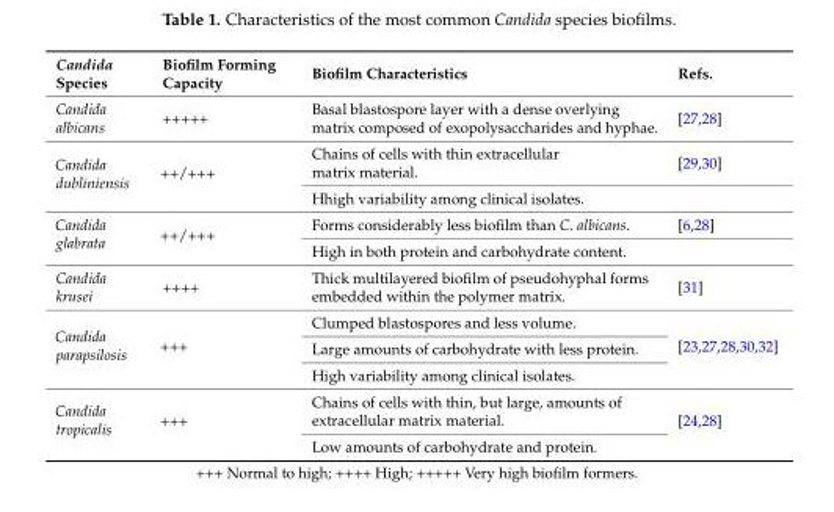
<table><thead><tr><td>Candida Species</td><td>Biofilm Forming Capacity</td><td>Biofilm Characteristics</td><td>Refs.</td></tr></thead><tbody><tr><td>Candida albicans</td><td>+++++</td><td>Basal blastospore layer with a dense overlying matrix composed of exopolysaccharides and hyphae.</td><td>[27,28]</td></tr><tr><td rowspan="2">Candida dubliniensis</td><td rowspan="2">++/+++</td><td>Chains of cells with thin extracellular matrix material.</td><td>[29,30]</td></tr><tr><td>Hhigh variability among clinical isolates.</td><td></td></tr><tr><td rowspan="2">Candida glabrata</td><td rowspan="2">++/+++</td><td>Forms considerably less biofilm than C. albicans.</td><td>[6,28]</td></tr><tr><td>High in both protein and carbohydrate content.</td><td></td></tr><tr><td>Candida krusei</td><td>++++</td><td>Thick multilayered biofilm of pseudohyphal forms embedded within the polymer matrix.</td><td>[31]</td></tr><tr><td rowspan="3">Candida parapsilosis</td><td rowspan="3">+++</td><td>Clumped blastospores and less volume.</td><td rowspan="3">[23,27,28,30,32]</td></tr><tr><td>Large amounts of carbohydrate with less protein.</td></tr><tr><td>High variability among clinical isolates.</td></tr><tr><td rowspan="2">Candida tropicalis</td><td rowspan="2">+++</td><td>Chains of cells with thin, but large, amounts of extracellular matrix material.</td><td rowspan="2">[24,28]</td></tr><tr><td>Low amounts of carbohydrate and protein.</td></tr></tbody></table>